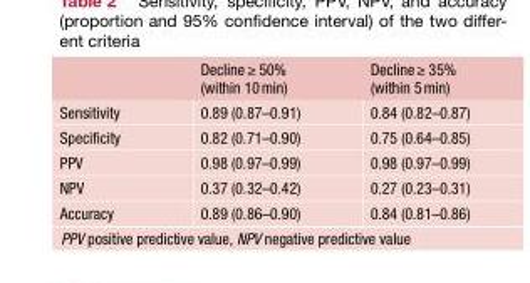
<table><thead><tr><td></td><td>Decline≥ 50% (within 10min)</td><td>Decline≥ 35% (within 5min)</td></tr></thead><tbody><tr><td>Sensitivity</td><td>0.89 (0.87–0.91)</td><td>0.84 (0.82–0.87)</td></tr><tr><td>Specificity</td><td>0.82 (0.71–0.90)</td><td>0.75 (0.64–0.85)</td></tr><tr><td>PPV</td><td>0.98 (0.97–0.99)</td><td>0.98 (0.97–0.99)</td></tr><tr><td>NPV</td><td>0.37 (0.32–0.42)</td><td>0.27 (0.23–0.31)</td></tr><tr><td>Accuracy</td><td>0.89 (0.86–0.90)</td><td>0.84 (0.81–0.86)</td></tr></tbody></table>